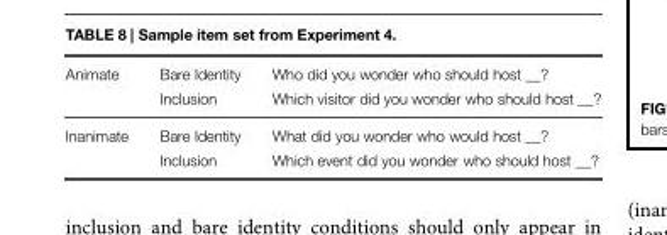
<table><tbody><tr><td rowspan="2">Animate</td><td>Bare Identity</td><td>Who did you wonder who should host __?</td></tr><tr><td>Inclusion</td><td>Which visitor did you wonder who should host __?</td></tr><tr><td rowspan="2">Inanimate</td><td>Bare Identity</td><td>What did you wonder who would host __?</td></tr><tr><td>Inclusion</td><td>Which event did you wonder who should host __?</td></tr></tbody></table>